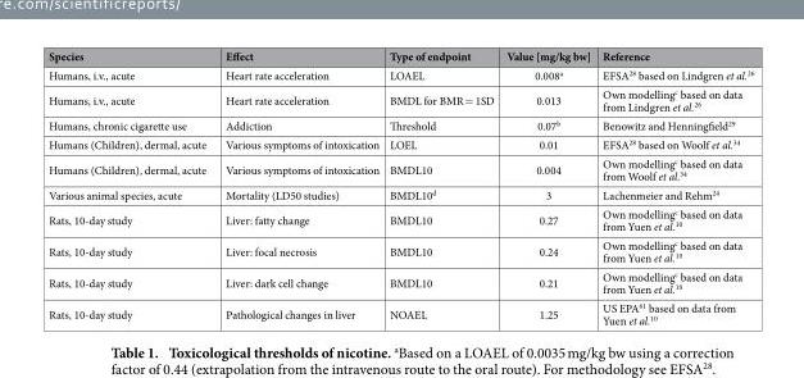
<table><thead><tr><td>Species</td><td>Effect</td><td>Type of endpoint</td><td>Value [mg/kg bw]</td><td>Reference</td></tr></thead><tbody><tr><td>Humans, i.v., acute</td><td>Heart rate acceleration</td><td>LOAEL</td><td>0.008<sup>a</sup></td><td>EFSA<sup>28</sup> based on Lindgren et al.<sup>26</sup></td></tr><tr><td>Humans, i.v., acute</td><td>Heart rate acceleration</td><td>BMDL for BMR = 1SD</td><td>0.013</td><td>Own modelling<sup>c</sup> based on data from Lindgren et al.<sup>26</sup></td></tr><tr><td>Humans, chronic cigarette use</td><td>Addiction</td><td>Threshold</td><td>0.07<sup>b</sup></td><td>Benowitz and Henningfield<sup>29</sup></td></tr><tr><td>Humans (Children), dermal, acute</td><td>Various symptoms of intoxication</td><td>LOEL</td><td>0.01</td><td>EFSA<sup>28</sup> based on Woolf et al.<sup>34</sup></td></tr><tr><td>Humans (Children), dermal, acute</td><td>Various symptoms of intoxication</td><td>BMDL10</td><td>0.004</td><td>Own modelling<sup>c</sup> based on data from Woolf et al.<sup>34</sup></td></tr><tr><td>Various animal species, acute</td><td>Mortality (LD50 studies)</td><td>BMDL10<sup>d</sup></td><td>3</td><td>Lachenmeier and Rehm<sup>24</sup></td></tr><tr><td>Rats, 10-day study</td><td>Liver: fatty change</td><td>BMDL10</td><td>0.27</td><td>Own modelling<sup>c</sup> based on data from Yuen et al.<sup>10</sup></td></tr><tr><td>Rats, 10-day study</td><td>Liver: focal necrosis</td><td>BMDL10</td><td>0.24</td><td>Own modelling<sup>c</sup> based on data from Yuen et al.<sup>10</sup></td></tr><tr><td>Rats, 10-day study</td><td>Liver: dark cell change</td><td>BMDL10</td><td>0.21</td><td>Own modelling<sup>c</sup> based on data from Yuen et al.<sup>10</sup></td></tr><tr><td>Rats, 10-day study</td><td>Pathological changes in liver</td><td>NOAEL</td><td>1.25</td><td>US EPA<sup>61</sup> based on data from Yuen et al.<sup>10</sup></td></tr></tbody></table>